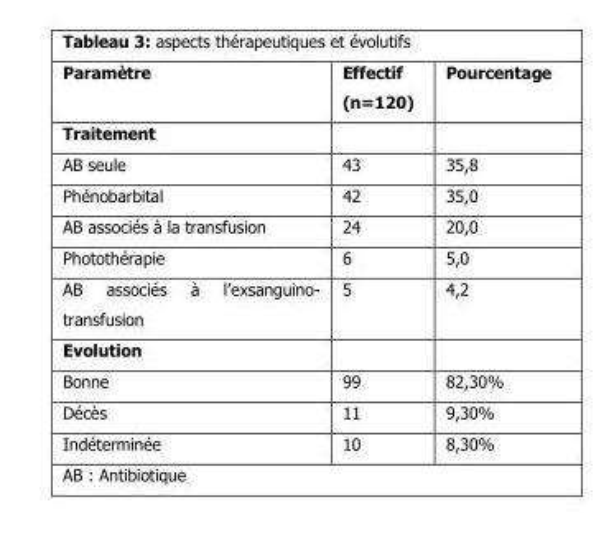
<table><thead><tr><td>Paramètre</td><td>Effectif (n=120)</td><td>Pourcentage</td></tr></thead><tbody><tr><td colspan="3">Traitement</td></tr><tr><td>AB seule</td><td>43</td><td>35,8</td></tr><tr><td>Phénobarbital</td><td>42</td><td>35,0</td></tr><tr><td>AB associés à la transfusion</td><td>24</td><td>20,0</td></tr><tr><td>Photothérapie</td><td>6</td><td>5,0</td></tr><tr><td>AB associés à l’exsanguino- transfusion</td><td>5</td><td>4,2</td></tr><tr><td colspan="3">Evolution</td></tr><tr><td>Bonne</td><td>99</td><td>82,30%</td></tr><tr><td>Décès</td><td>11</td><td>9,30%</td></tr><tr><td>Indéterminée</td><td>10</td><td>8,30%</td></tr><tr><td>AB : Antibiotique</td><td></td><td></td></tr></tbody></table>